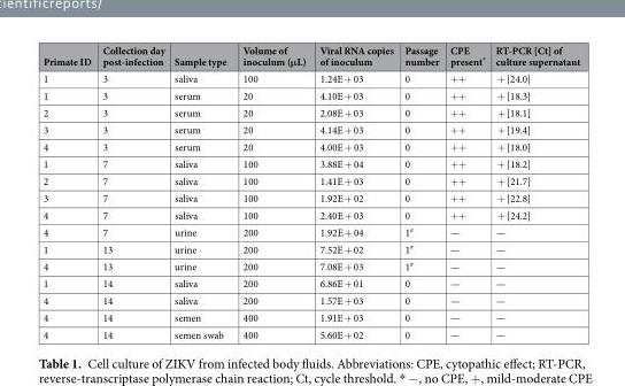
<table><thead><tr><td>Primate ID</td><td>Collection day post-infection</td><td>Sample type</td><td>Volume of inoculum (μL)</td><td>Viral RNA copies of inoculum</td><td>Passage number</td><td>CPE present*</td><td>RT-PCR [Ct] of culture supernatant</td></tr></thead><tbody><tr><td>1</td><td>3</td><td>saliva</td><td>100</td><td>1.24E + 03</td><td>0</td><td>++</td><td>+ [24.0]</td></tr><tr><td>1</td><td>3</td><td>serum</td><td>20</td><td>4.10E + 03</td><td>0</td><td>++</td><td>+ [18.3]</td></tr><tr><td>2</td><td>3</td><td>serum</td><td>20</td><td>2.08E + 03</td><td>0</td><td>++</td><td>+ [18.1]</td></tr><tr><td>3</td><td>3</td><td>serum</td><td>20</td><td>4.14E + 03</td><td>0</td><td>++</td><td>+ [19.4]</td></tr><tr><td>4</td><td>3</td><td>serum</td><td>20</td><td>4.00E + 03</td><td>0</td><td>++</td><td>+ [18.0]</td></tr><tr><td>1</td><td>7</td><td>saliva</td><td>100</td><td>3.88E + 04</td><td>0</td><td>++</td><td>+ [18.2]</td></tr><tr><td>2</td><td>7</td><td>saliva</td><td>100</td><td>1.41E + 03</td><td>0</td><td>++</td><td>+ [21.7]</td></tr><tr><td>3</td><td>7</td><td>saliva</td><td>100</td><td>1.92E + 02</td><td>0</td><td>++</td><td>+ [22.8]</td></tr><tr><td>4</td><td>7</td><td>saliva</td><td>100</td><td>2.40E + 03</td><td>0</td><td>++</td><td>+ [24.2]</td></tr><tr><td>4</td><td>7</td><td>urine</td><td>200</td><td>1.92E + 04</td><td>1<sup>#</sup></td><td>—</td><td>—</td></tr><tr><td>1</td><td>13</td><td>urine</td><td>200</td><td>7.52E + 02</td><td>1<sup>#</sup></td><td>—</td><td>—</td></tr><tr><td>4</td><td>13</td><td>urine</td><td>200</td><td>7.08E + 03</td><td>1<sup>#</sup></td><td>—</td><td>—</td></tr><tr><td>1</td><td>14</td><td>saliva</td><td>200</td><td>6.86E + 01</td><td>0</td><td>—</td><td>—</td></tr><tr><td>4</td><td>14</td><td>saliva</td><td>200</td><td>1.57E + 03</td><td>0</td><td>—</td><td>—</td></tr><tr><td>4</td><td>14</td><td>semen</td><td>400</td><td>1.91E + 03</td><td>0</td><td>—</td><td>—</td></tr><tr><td>4</td><td>14</td><td>semen swab</td><td>400</td><td>5.60E + 02</td><td>0</td><td>—</td><td>—</td></tr></tbody></table>